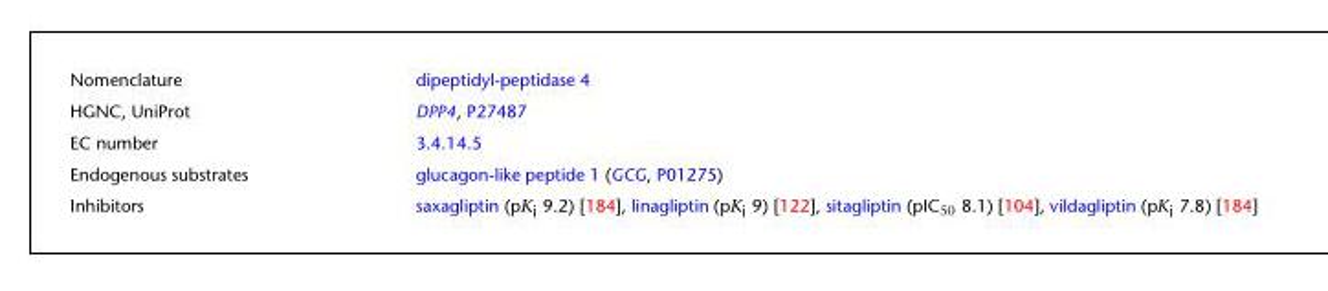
<table><tbody><tr><td>Nomenclature</td><td>dipeptidyl-peptidase 4</td></tr><tr><td>HGNC, UniProt</td><td>DPP4, P27487</td></tr><tr><td>EC number</td><td>3.4.14.5</td></tr><tr><td>Endogenous substrates</td><td>glucagon-like peptide 1 (GCG, P01275)</td></tr><tr><td>Inhibitors</td><td>saxagliptin (pK<sub>i</sub> 9.2) [184], linagliptin (pK<sub>i</sub> 9) [122], sitagliptin (pIC<sub>50</sub> 8.1) [104], vildagliptin (pK<sub>i</sub> 7.8) [184]</td></tr></tbody></table>